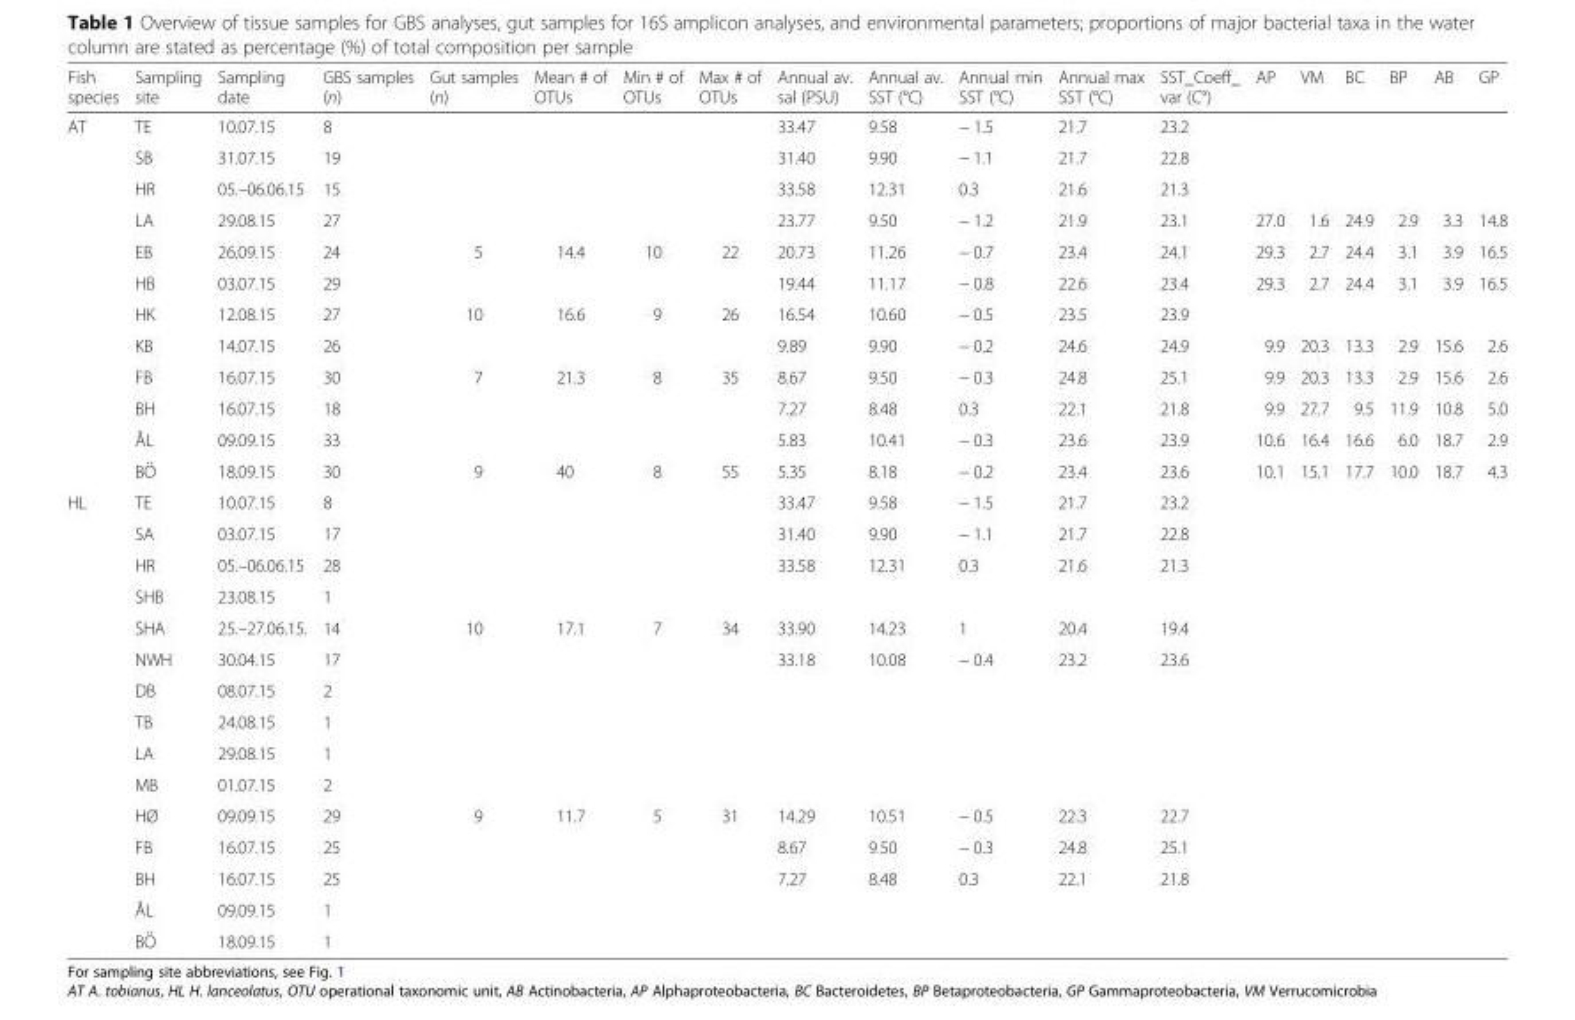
<table><thead><tr><td>Fish species</td><td>Sampling site</td><td>Sampling date</td><td>GBS samples (n)</td><td>Gut samples (n)</td><td>Mean # of OTUs</td><td>Min # of OTUs</td><td>Max # of OTUs</td><td>Annual av. sal (PSU)</td><td>Annual av. SST (°C)</td><td>Annual min SST (°C)</td><td>Annual max SST (°C)</td><td>SST_Coeff_ var (C°)</td><td>AP</td><td>VM</td><td>BC</td><td>BP</td><td>AB</td><td>GP</td></tr></thead><tbody><tr><td rowspan="12">AT</td><td>TE</td><td>10.07.15</td><td>8</td><td></td><td></td><td></td><td></td><td>33.47</td><td>9.58</td><td>− 1.5</td><td>21.7</td><td>23.2</td><td></td><td></td><td></td><td></td><td></td><td></td></tr><tr><td>SB</td><td>31.07.15</td><td>19</td><td></td><td></td><td></td><td></td><td>31.40</td><td>9.90</td><td>− 1.1</td><td>21.7</td><td>22.8</td><td></td><td></td><td></td><td></td><td></td><td></td></tr><tr><td>HR</td><td>05.–06.06.15</td><td>15</td><td></td><td></td><td></td><td></td><td>33.58</td><td>12.31</td><td>0.3</td><td>21.6</td><td>21.3</td><td></td><td></td><td></td><td></td><td></td><td></td></tr><tr><td>LA</td><td>29.08.15</td><td>27</td><td></td><td></td><td></td><td></td><td>23.77</td><td>9.50</td><td>− 1.2</td><td>21.9</td><td>23.1</td><td>27.0</td><td>1.6</td><td>24.9</td><td>2.9</td><td>3.3</td><td>14.8</td></tr><tr><td>EB</td><td>26.09.15</td><td>24</td><td>5</td><td>14.4</td><td>10</td><td>22</td><td>20.73</td><td>11.26</td><td>− 0.7</td><td>23.4</td><td>24.1</td><td>29.3</td><td>2.7</td><td>24.4</td><td>3.1</td><td>3.9</td><td>16.5</td></tr><tr><td>HB</td><td>03.07.15</td><td>29</td><td></td><td></td><td></td><td></td><td>19.44</td><td>11.17</td><td>− 0.8</td><td>22.6</td><td>23.4</td><td>29.3</td><td>2.7</td><td>24.4</td><td>3.1</td><td>3.9</td><td>16.5</td></tr><tr><td>HK</td><td>12.08.15</td><td>27</td><td>10</td><td>16.6</td><td>9</td><td>26</td><td>16.54</td><td>10.60</td><td>− 0.5</td><td>23.5</td><td>23.9</td><td></td><td></td><td></td><td></td><td></td><td></td></tr><tr><td>KB</td><td>14.07.15</td><td>26</td><td></td><td></td><td></td><td></td><td>9.89</td><td>9.90</td><td>− 0.2</td><td>24.6</td><td>24.9</td><td>9.9</td><td>20.3</td><td>13.3</td><td>2.9</td><td>15.6</td><td>2.6</td></tr><tr><td>FB</td><td>16.07.15</td><td>30</td><td>7</td><td>21.3</td><td>8</td><td>35</td><td>8.67</td><td>9.50</td><td>− 0.3</td><td>24.8</td><td>25.1</td><td>9.9</td><td>20.3</td><td>13.3</td><td>2.9</td><td>15.6</td><td>2.6</td></tr><tr><td>BH</td><td>16.07.15</td><td>18</td><td></td><td></td><td></td><td></td><td>7.27</td><td>8.48</td><td>0.3</td><td>22.1</td><td>21.8</td><td>9.9</td><td>27.7</td><td>9.5</td><td>11.9</td><td>10.8</td><td>5.0</td></tr><tr><td>ÅL</td><td>09.09.15</td><td>33</td><td></td><td></td><td></td><td></td><td>5.83</td><td>10.41</td><td>− 0.3</td><td>23.6</td><td>23.9</td><td>10.6</td><td>16.4</td><td>16.6</td><td>6.0</td><td>18.7</td><td>2.9</td></tr><tr><td>BӦ</td><td>18.09.15</td><td>30</td><td>9</td><td>40</td><td>8</td><td>55</td><td>5.35</td><td>8.18</td><td>− 0.2</td><td>23.4</td><td>23.6</td><td>10.1</td><td>15.1</td><td>17.7</td><td>10.0</td><td>18.7</td><td>4.3</td></tr><tr><td rowspan="15">HL</td><td>TE</td><td>10.07.15</td><td>8</td><td></td><td></td><td></td><td></td><td>33.47</td><td>9.58</td><td>− 1.5</td><td>21.7</td><td>23.2</td><td></td><td></td><td></td><td></td><td></td><td></td></tr><tr><td>SA</td><td>03.07.15</td><td>17</td><td></td><td></td><td></td><td></td><td>31.40</td><td>9.90</td><td>− 1.1</td><td>21.7</td><td>22.8</td><td></td><td></td><td></td><td></td><td></td><td></td></tr><tr><td>HR</td><td>05.–06.06.15</td><td>28</td><td></td><td></td><td></td><td></td><td>33.58</td><td>12.31</td><td>0.3</td><td>21.6</td><td>21.3</td><td></td><td></td><td></td><td></td><td></td><td></td></tr><tr><td>SHB</td><td>23.08.15</td><td>1</td><td></td><td></td><td></td><td></td><td></td><td></td><td></td><td></td><td></td><td></td><td></td><td></td><td></td><td></td><td></td></tr><tr><td>SHA</td><td>25.–27.06.15.</td><td>14</td><td>10</td><td>17.1</td><td>7</td><td>34</td><td>33.90</td><td>14.23</td><td>1</td><td>20.4</td><td>19.4</td><td></td><td></td><td></td><td></td><td></td><td></td></tr><tr><td>NWH</td><td>30.04.15</td><td>17</td><td></td><td></td><td></td><td></td><td>33.18</td><td>10.08</td><td>− 0.4</td><td>23.2</td><td>23.6</td><td></td><td></td><td></td><td></td><td></td><td></td></tr><tr><td>DB</td><td>08.07.15</td><td>2</td><td></td><td></td><td></td><td></td><td></td><td></td><td></td><td></td><td></td><td></td><td></td><td></td><td></td><td></td><td></td></tr><tr><td>TB</td><td>24.08.15</td><td>1</td><td></td><td></td><td></td><td></td><td></td><td></td><td></td><td></td><td></td><td></td><td></td><td></td><td></td><td></td><td></td></tr><tr><td>LA</td><td>29.08.15</td><td>1</td><td></td><td></td><td></td><td></td><td></td><td></td><td></td><td></td><td></td><td></td><td></td><td></td><td></td><td></td><td></td></tr><tr><td>MB</td><td>01.07.15</td><td>2</td><td></td><td></td><td></td><td></td><td></td><td></td><td></td><td></td><td></td><td></td><td></td><td></td><td></td><td></td><td></td></tr><tr><td>HØ</td><td>09.09.15</td><td>29</td><td>9</td><td>11.7</td><td>5</td><td>31</td><td>14.29</td><td>10.51</td><td>− 0.5</td><td>22.3</td><td>22.7</td><td></td><td></td><td></td><td></td><td></td><td></td></tr><tr><td>FB</td><td>16.07.15</td><td>25</td><td></td><td></td><td></td><td></td><td>8.67</td><td>9.50</td><td>− 0.3</td><td>24.8</td><td>25.1</td><td></td><td></td><td></td><td></td><td></td><td></td></tr><tr><td>BH</td><td>16.07.15</td><td>25</td><td></td><td></td><td></td><td></td><td>7.27</td><td>8.48</td><td>0.3</td><td>22.1</td><td>21.8</td><td></td><td></td><td></td><td></td><td></td><td></td></tr><tr><td>ÅL</td><td>09.09.15</td><td>1</td><td></td><td></td><td></td><td></td><td></td><td></td><td></td><td></td><td></td><td></td><td></td><td></td><td></td><td></td><td></td></tr><tr><td>BӦ</td><td>18.09.15</td><td>1</td><td></td><td></td><td></td><td></td><td></td><td></td><td></td><td></td><td></td><td></td><td></td><td></td><td></td><td></td><td></td></tr></tbody></table>